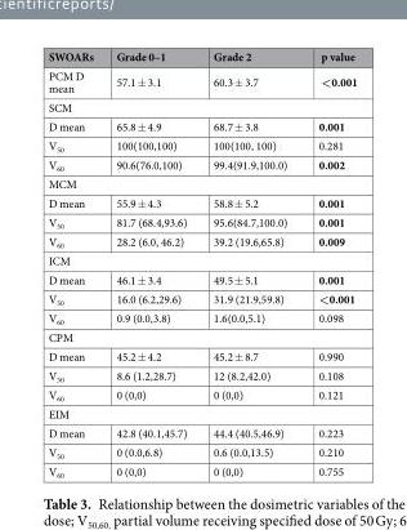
<table><thead><tr><td>SWOARs</td><td>Grade 0–1</td><td>Grade 2</td><td>p value</td></tr></thead><tbody><tr><td>PCM D mean</td><td>57.1 ± 3.1</td><td>60.3 ± 3.7</td><td>&lt;0.001</td></tr><tr><td colspan="4">SCM</td></tr><tr><td>D mean</td><td>65.8 ± 4.9</td><td>68.7 ± 3.8</td><td>0.001</td></tr><tr><td>V<sub>50</sub></td><td>100(100,100)</td><td>100(100, 100)</td><td>0.281</td></tr><tr><td>V<sub>60</sub></td><td>90.6(76.0,100)</td><td>99.4(91.9,100.0)</td><td>0.002</td></tr><tr><td colspan="4">MCM</td></tr><tr><td>D mean</td><td>55.9 ± 4.3</td><td>58.8 ± 5.2</td><td>0.001</td></tr><tr><td>V<sub>50</sub></td><td>81.7 (68.4,93.6)</td><td>95.6(84.7,100.0)</td><td>0.001</td></tr><tr><td>V<sub>60</sub></td><td>28.2 (6.0, 46.2)</td><td>39.2 (19.6,65.8)</td><td>0.009</td></tr><tr><td colspan="4">ICM</td></tr><tr><td>D mean</td><td>46.1 ± 3.4</td><td>49.5 ± 5.1</td><td>0.001</td></tr><tr><td>V<sub>50</sub></td><td>16.0 (6.2,29.6)</td><td>31.9 (21.9,59.8)</td><td>&lt;0.001</td></tr><tr><td>V<sub>60</sub></td><td>0.9 (0.0,3.8)</td><td>1.6(0.0,5.1)</td><td>0.098</td></tr><tr><td colspan="4">CPM</td></tr><tr><td>D mean</td><td>45.2 ± 4.2</td><td>45.2 ± 8.7</td><td>0.990</td></tr><tr><td>V<sub>50</sub></td><td>8.6 (1.2,28.7)</td><td>12 (8.2,42.0)</td><td>0.108</td></tr><tr><td>V<sub>60</sub></td><td>0 (0,0)</td><td>0 (0,0)</td><td>0.121</td></tr><tr><td colspan="4">EIM</td></tr><tr><td>D mean</td><td>42.8 (40.1,45.7)</td><td>44.4 (40.5,46.9)</td><td>0.223</td></tr><tr><td>V<sub>50</sub></td><td>0 (0.0,6.8)</td><td>0.6 (0.0,13.5)</td><td>0.210</td></tr><tr><td>V<sub>60</sub></td><td>0 (0,0)</td><td>0 (0,0)</td><td>0.755</td></tr></tbody></table>